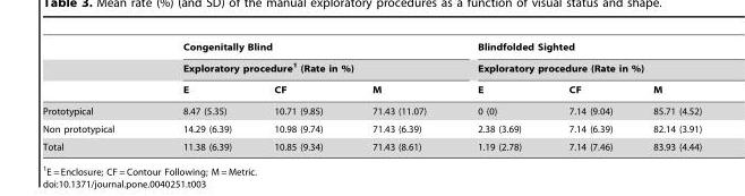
<table><thead><tr><td rowspan="3"></td><td rowspan="2" colspan="3">Congenitally Blind Exploratory procedure<sup>1</sup> (Rate in %)</td><td rowspan="2" colspan="3">Blindfolded Sighted Exploratory procedure (Rate in %)</td></tr><tr></tr><tr><td>E</td><td>CF</td><td>M</td><td>E</td><td>CF</td><td>M</td></tr></thead><tbody><tr><td>Prototypical</td><td>8.47 (5.35)</td><td>10.71 (9.85)</td><td>71.43 (11.07)</td><td>0 (0)</td><td>7.14 (9.04)</td><td>85.71 (4.52)</td></tr><tr><td>Non prototypical</td><td>14.29 (6.39)</td><td>10.98 (9.74)</td><td>71.43 (6.39)</td><td>2.38 (3.69)</td><td>7.14 (6.39)</td><td>82.14 (3.91)</td></tr><tr><td>Total</td><td>11.38 (6.39)</td><td>10.85 (9.34)</td><td>71.43 (8.61)</td><td>1.19 (2.78)</td><td>7.14 (7.46)</td><td>83.93 (4.44)</td></tr></tbody></table>